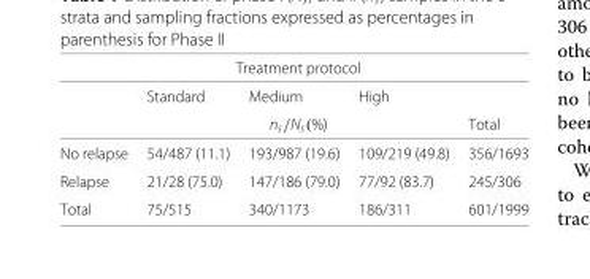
<table><thead><tr><td rowspan="2"></td><td colspan="3">Treatment protocol</td><td rowspan="2"></td></tr><tr><td>Standard</td><td>Medium</td><td>High</td></tr></thead><tbody><tr><td></td><td colspan="3">n<sub>s</sub>/N<sub>s</sub>(%)</td><td>Total</td></tr><tr><td>No relapse</td><td>54/487 (11.1)</td><td>193/987 (19.6)</td><td>109/219 (49.8)</td><td>356/1693</td></tr><tr><td>Relapse</td><td>21/28 (75.0)</td><td>147/186 (79.0)</td><td>77/92 (83.7)</td><td>245/306</td></tr><tr><td>Total</td><td>75/515</td><td>340/1173</td><td>186/311</td><td>601/1999</td></tr></tbody></table>